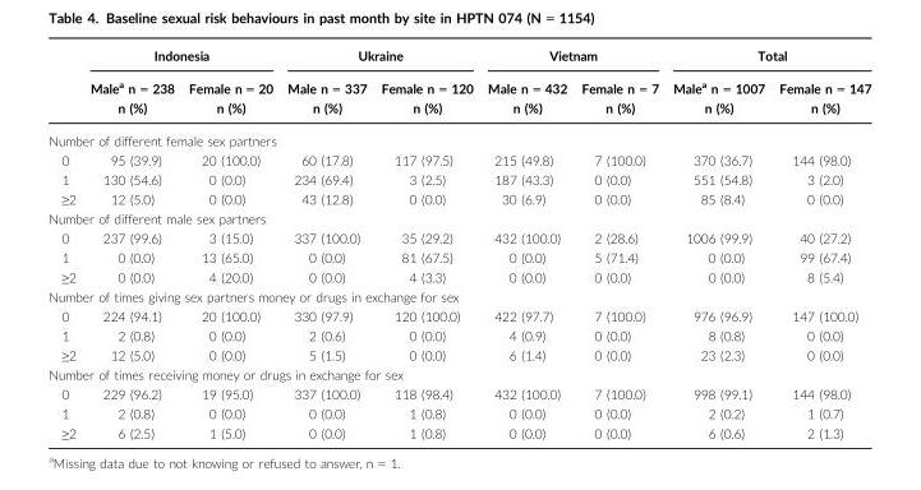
<table><thead><tr><td rowspan="3"></td><td colspan="2">Indonesia</td><td colspan="2">Ukraine</td><td colspan="2">Vietnam</td><td colspan="2">Total</td></tr><tr><td rowspan="2">Male<sup>a</sup> n = 238 n (%)</td><td rowspan="2">Female n = 20 n (%)</td><td rowspan="2">Male n = 337 n (%)</td><td rowspan="2">Female n = 120 n (%)</td><td rowspan="2">Male n = 432 n (%)</td><td rowspan="2">Female n = 7 n (%)</td><td rowspan="2">Male<sup>a</sup> n = 1007 n (%)</td><td rowspan="2">Female n = 147 n (%)</td></tr><tr></tr></thead><tbody><tr><td colspan="9">Number of different female sex partners</td></tr><tr><td>0</td><td>95 (39.9)</td><td>20 (100.0)</td><td>60 (17.8)</td><td>117 (97.5)</td><td>215 (49.8)</td><td>7 (100.0)</td><td>370 (36.7)</td><td>144 (98.0)</td></tr><tr><td>1</td><td>130 (54.6)</td><td>0 (0.0)</td><td>234 (69.4)</td><td>3 (2.5)</td><td>187 (43.3)</td><td>0 (0.0)</td><td>551 (54.8)</td><td>3 (2.0)</td></tr><tr><td>≥2</td><td>12 (5.0)</td><td>0 (0.0)</td><td>43 (12.8)</td><td>0 (0.0)</td><td>30 (6.9)</td><td>0 (0.0)</td><td>85 (8.4)</td><td>0 (0.0)</td></tr><tr><td colspan="9">Number of different male sex partners</td></tr><tr><td>0</td><td>237 (99.6)</td><td>3 (15.0)</td><td>337 (100.0)</td><td>35 (29.2)</td><td>432 (100.0)</td><td>2 (28.6)</td><td>1006 (99.9)</td><td>40 (27.2)</td></tr><tr><td>1</td><td>0 (0.0)</td><td>13 (65.0)</td><td>0 (0.0)</td><td>81 (67.5)</td><td>0 (0.0)</td><td>5 (71.4)</td><td>0 (0.0)</td><td>99 (67.4)</td></tr><tr><td>≥2</td><td>0 (0.0)</td><td>4 (20.0)</td><td>0 (0.0)</td><td>4 (3.3)</td><td>0 (0.0)</td><td>0 (0.0)</td><td>0 (0.0)</td><td>8 (5.4)</td></tr><tr><td colspan="9">Number of times giving sex partners money or drugs in exchange for sex</td></tr><tr><td>0</td><td>224 (94.1)</td><td>20 (100.0)</td><td>330 (97.9)</td><td>120 (100.0)</td><td>422 (97.7)</td><td>7 (100.0)</td><td>976 (96.9)</td><td>147 (100.0)</td></tr><tr><td>1</td><td>2 (0.8)</td><td>0 (0.0)</td><td>2 (0.6)</td><td>0 (0.0)</td><td>4 (0.9)</td><td>0 (0.0)</td><td>8 (0.8)</td><td>0 (0.0)</td></tr><tr><td>≥2</td><td>12 (5.0)</td><td>0 (0.0)</td><td>5 (1.5)</td><td>0 (0.0)</td><td>6 (1.4)</td><td>0 (0.0)</td><td>23 (2.3)</td><td>0 (0.0)</td></tr><tr><td colspan="9">Number of times receiving money or drugs in exchange for sex</td></tr><tr><td>0</td><td>229 (96.2)</td><td>19 (95.0)</td><td>337 (100.0)</td><td>118 (98.4)</td><td>432 (100.0)</td><td>7 (100.0)</td><td>998 (99.1)</td><td>144 (98.0)</td></tr><tr><td>1</td><td>2 (0.8)</td><td>0 (0.0)</td><td>0 (0.0)</td><td>1 (0.8)</td><td>0 (0.0)</td><td>0 (0.0)</td><td>2 (0.2)</td><td>1 (0.7)</td></tr><tr><td>≥2</td><td>6 (2.5)</td><td>1 (5.0)</td><td>0 (0.0)</td><td>1 (0.8)</td><td>0 (0.0)</td><td>0 (0.0)</td><td>6 (0.6)</td><td>2 (1.3)</td></tr></tbody></table>